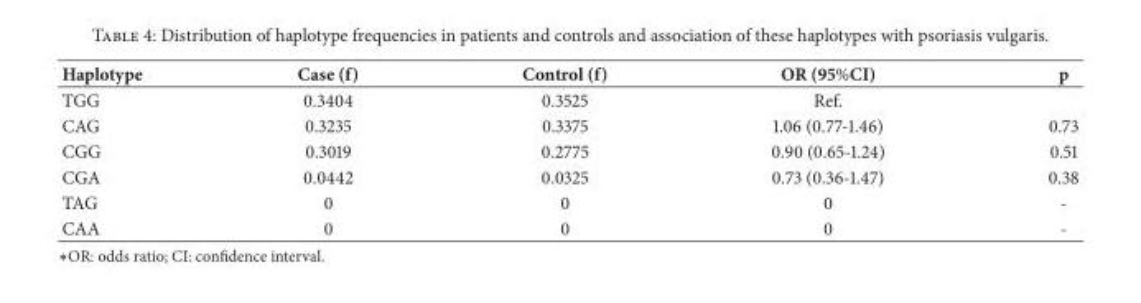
<table><thead><tr><td>Haplotype</td><td>Case (f)</td><td>Control (f)</td><td>OR (95%CI)</td><td>p</td></tr></thead><tbody><tr><td>TGG</td><td>0.3404</td><td>0.3525</td><td>Ref.</td><td></td></tr><tr><td>CAG</td><td>0.3235</td><td>0.3375</td><td>1.06 (0.77-1.46)</td><td>0.73</td></tr><tr><td>CGG</td><td>0.3019</td><td>0.2775</td><td>0.90 (0.65-1.24)</td><td>0.51</td></tr><tr><td>CGA</td><td>0.0442</td><td>0.0325</td><td>0.73 (0.36-1.47)</td><td>0.38</td></tr><tr><td>TAG</td><td>0</td><td>0</td><td>0</td><td>-</td></tr><tr><td>CAA</td><td>0</td><td>0</td><td>0</td><td>-</td></tr></tbody></table>